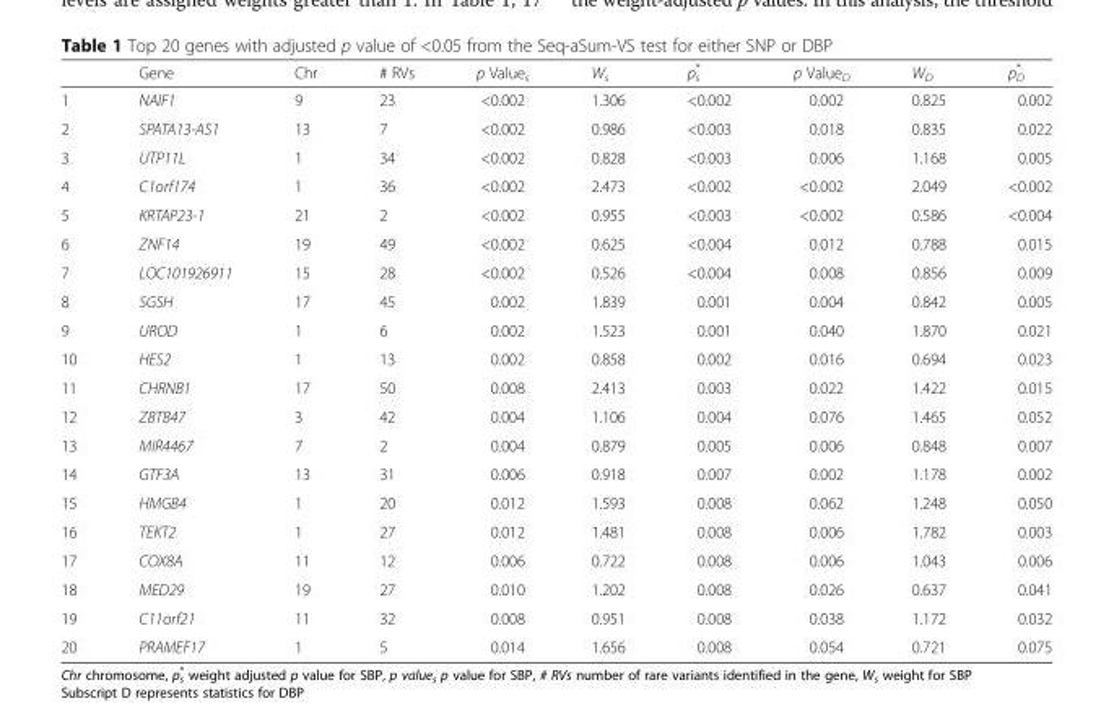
<table><thead><tr><td></td><td>Gene</td><td>Chr</td><td># RVs</td><td>p Value<sub>s</sub></td><td>W<sub>s</sub></td><td>p<sub>s</sub> *</td><td>p Value<sub>D</sub></td><td>W<sub>D</sub></td><td>p<sub>D</sub> *</td></tr></thead><tbody><tr><td>1</td><td>NAIF1</td><td>9</td><td>23</td><td>&lt;0.002</td><td>1.306</td><td>&lt;0.002</td><td>0.002</td><td>0.825</td><td>0.002</td></tr><tr><td>2</td><td>SPATA13-AS1</td><td>13</td><td>7</td><td>&lt;0.002</td><td>0.986</td><td>&lt;0.003</td><td>0.018</td><td>0.835</td><td>0.022</td></tr><tr><td>3</td><td>UTP11L</td><td>1</td><td>34</td><td>&lt;0.002</td><td>0.828</td><td>&lt;0.003</td><td>0.006</td><td>1.168</td><td>0.005</td></tr><tr><td>4</td><td>C1orf174</td><td>1</td><td>36</td><td>&lt;0.002</td><td>2.473</td><td>&lt;0.002</td><td>&lt;0.002</td><td>2.049</td><td>&lt;0.002</td></tr><tr><td>5</td><td>KRTAP23-1</td><td>21</td><td>2</td><td>&lt;0.002</td><td>0.955</td><td>&lt;0.003</td><td>&lt;0.002</td><td>0.586</td><td>&lt;0.004</td></tr><tr><td>6</td><td>ZNF14</td><td>19</td><td>49</td><td>&lt;0.002</td><td>0.625</td><td>&lt;0.004</td><td>0.012</td><td>0.788</td><td>0.015</td></tr><tr><td>7</td><td>LOC101926911</td><td>15</td><td>28</td><td>&lt;0.002</td><td>0.526</td><td>&lt;0.004</td><td>0.008</td><td>0.856</td><td>0.009</td></tr><tr><td>8</td><td>SGSH</td><td>17</td><td>45</td><td>0.002</td><td>1.839</td><td>0.001</td><td>0.004</td><td>0.842</td><td>0.005</td></tr><tr><td>9</td><td>UROD</td><td>1</td><td>6</td><td>0.002</td><td>1.523</td><td>0.001</td><td>0.040</td><td>1.870</td><td>0.021</td></tr><tr><td>10</td><td>HES2</td><td>1</td><td>13</td><td>0.002</td><td>0.858</td><td>0.002</td><td>0.016</td><td>0.694</td><td>0.023</td></tr><tr><td>11</td><td>CHRNB1</td><td>17</td><td>50</td><td>0.008</td><td>2.413</td><td>0.003</td><td>0.022</td><td>1.422</td><td>0.015</td></tr><tr><td>12</td><td>ZBTB47</td><td>3</td><td>42</td><td>0.004</td><td>1.106</td><td>0.004</td><td>0.076</td><td>1.465</td><td>0.052</td></tr><tr><td>13</td><td>MIR4467</td><td>7</td><td>2</td><td>0.004</td><td>0.879</td><td>0.005</td><td>0.006</td><td>0.848</td><td>0.007</td></tr><tr><td>14</td><td>GTF3A</td><td>13</td><td>31</td><td>0.006</td><td>0.918</td><td>0.007</td><td>0.002</td><td>1.178</td><td>0.002</td></tr><tr><td>15</td><td>HMGB4</td><td>1</td><td>20</td><td>0.012</td><td>1.593</td><td>0.008</td><td>0.062</td><td>1.248</td><td>0.050</td></tr><tr><td>16</td><td>TEKT2</td><td>1</td><td>27</td><td>0.012</td><td>1.481</td><td>0.008</td><td>0.006</td><td>1.782</td><td>0.003</td></tr><tr><td>17</td><td>COX8A</td><td>11</td><td>12</td><td>0.006</td><td>0.722</td><td>0.008</td><td>0.006</td><td>1.043</td><td>0.006</td></tr><tr><td>18</td><td>MED29</td><td>19</td><td>27</td><td>0.010</td><td>1.202</td><td>0.008</td><td>0.026</td><td>0.637</td><td>0.041</td></tr><tr><td>19</td><td>C11orf21</td><td>11</td><td>32</td><td>0.008</td><td>0.951</td><td>0.008</td><td>0.038</td><td>1.172</td><td>0.032</td></tr><tr><td>20</td><td>PRAMEF17</td><td>1</td><td>5</td><td>0.014</td><td>1.656</td><td>0.008</td><td>0.054</td><td>0.721</td><td>0.075</td></tr></tbody></table>